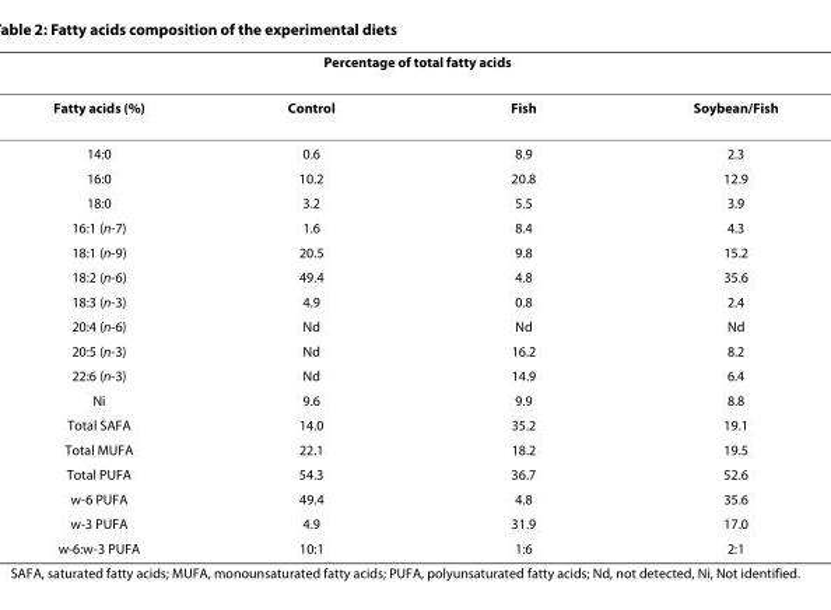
<table><thead><tr><td colspan="4">Percentage of total fatty acids</td></tr><tr><td>Fatty acids (%)</td><td>Control</td><td>Fish</td><td>Soybean/Fish</td></tr></thead><tbody><tr><td>14:0</td><td>0.6</td><td>8.9</td><td>2.3</td></tr><tr><td>16:0</td><td>10.2</td><td>20.8</td><td>12.9</td></tr><tr><td>18:0</td><td>3.2</td><td>5.5</td><td>3.9</td></tr><tr><td>16:1 (n-7)</td><td>1.6</td><td>8.4</td><td>4.3</td></tr><tr><td>18:1 (n-9)</td><td>20.5</td><td>9.8</td><td>15.2</td></tr><tr><td>18:2 (n-6)</td><td>49.4</td><td>4.8</td><td>35.6</td></tr><tr><td>18:3 (n-3)</td><td>4.9</td><td>0.8</td><td>2.4</td></tr><tr><td>20:4 (n-6)</td><td>Nd</td><td>Nd</td><td>Nd</td></tr><tr><td>20:5 (n-3)</td><td>Nd</td><td>16.2</td><td>8.2</td></tr><tr><td>22:6 (n-3)</td><td>Nd</td><td>14.9</td><td>6.4</td></tr><tr><td>Ni</td><td>9.6</td><td>9.9</td><td>8.8</td></tr><tr><td>Total SAFA</td><td>14.0</td><td>35.2</td><td>19.1</td></tr><tr><td>Total MUFA</td><td>22.1</td><td>18.2</td><td>19.5</td></tr><tr><td>Total PUFA</td><td>54.3</td><td>36.7</td><td>52.6</td></tr><tr><td>w-6 PUFA</td><td>49.4</td><td>4.8</td><td>35.6</td></tr><tr><td>w-3 PUFA</td><td>4.9</td><td>31.9</td><td>17.0</td></tr><tr><td>w-6:w-3 PUFA</td><td>10:1</td><td>1:6</td><td>2:1</td></tr></tbody></table>